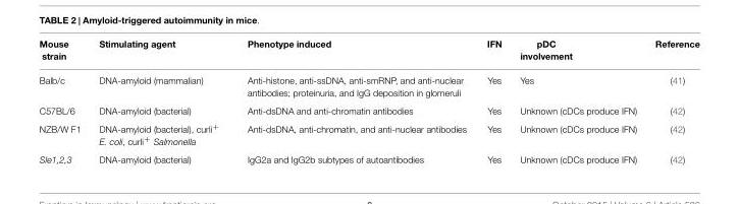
<table><thead><tr><td>Mouse strain</td><td>Stimulating agent</td><td>Phenotype induced</td><td>IFN</td><td>pDC involvement</td><td>Reference</td></tr></thead><tbody><tr><td>Balb/c</td><td>DNA-amyloid (mammalian)</td><td>Anti-histone, anti-ssDNA, anti-smRNP, and anti-nuclear antibodies; proteinuria, and IgG deposition in glomeruli</td><td>Yes</td><td>Yes</td><td>(41)</td></tr><tr><td>C57BL/6</td><td>DNA-amyloid (bacterial)</td><td>Anti-dsDNA and anti-chromatin antibodies</td><td>Yes</td><td>Unknown (cDCs produce IFN)</td><td>(42)</td></tr><tr><td>NZB/W F1</td><td>DNA-amyloid (bacterial), curli<sup>+</sup> E. coli, curli<sup>+</sup> Salmonella</td><td>Anti-dsDNA, anti-chromatin, and anti-nuclear antibodies</td><td>Yes</td><td>Unknown (cDCs produce IFN)</td><td>(42)</td></tr><tr><td>Sle1,2,3</td><td>DNA-amyloid (bacterial)</td><td>IgG2a and IgG2b subtypes of autoantibodies</td><td>Yes</td><td>Unknown (cDCs produce IFN)</td><td>(42)</td></tr></tbody></table>